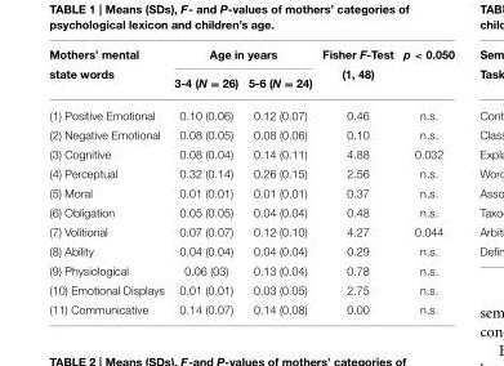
<table><thead><tr><td rowspan="2">Mothers’ mental state words</td><td colspan="2">Age in years</td><td rowspan="2">Fisher F-Test (1, 48)</td><td rowspan="2">p &lt; 0.050</td></tr><tr><td>3-4 (N = 26)</td><td>5-6 (N = 24)</td></tr></thead><tbody><tr><td>(1) Positive Emotional</td><td>0.10 (0.06)</td><td>0.12 (0.07)</td><td>0.46</td><td>n.s.</td></tr><tr><td>(2) Negative Emotional</td><td>0.08 (0.05)</td><td>0.08 (0.06)</td><td>0.10</td><td>n.s.</td></tr><tr><td>(3) Cognitive</td><td>0.08 (0.04)</td><td>0.14 (0.11)</td><td>4.88</td><td>0.032</td></tr><tr><td>(4) Perceptual</td><td>0.32 (0.14)</td><td>0.26 (0.15)</td><td>2.56</td><td>n.s.</td></tr><tr><td>(5) Moral</td><td>0.01 (0.01)</td><td>0.01 (0.01)</td><td>0.37</td><td>n.s.</td></tr><tr><td>(6) Obligation</td><td>0.05 (0.05)</td><td>0.04 (0.04)</td><td>0.48</td><td>n.s.</td></tr><tr><td>(7) Volitional</td><td>0.07 (0.07)</td><td>0.12 (0.10)</td><td>4.27</td><td>0.044</td></tr><tr><td>(8) Ability</td><td>0.04 (0.04)</td><td>0.04 (0.04)</td><td>0.29</td><td>n.s.</td></tr><tr><td>(9) Physiological</td><td>0.06 (03)</td><td>0.13 (0.04)</td><td>0.78</td><td>n.s.</td></tr><tr><td>(10) Emotional Displays</td><td>0.01 (0.01)</td><td>0.03 (0.05)</td><td>2.75</td><td>n.s.</td></tr><tr><td>(11) Communicative</td><td>0.14 (0.07)</td><td>0.14 (0.08)</td><td>0.00</td><td>n.s.</td></tr></tbody></table>